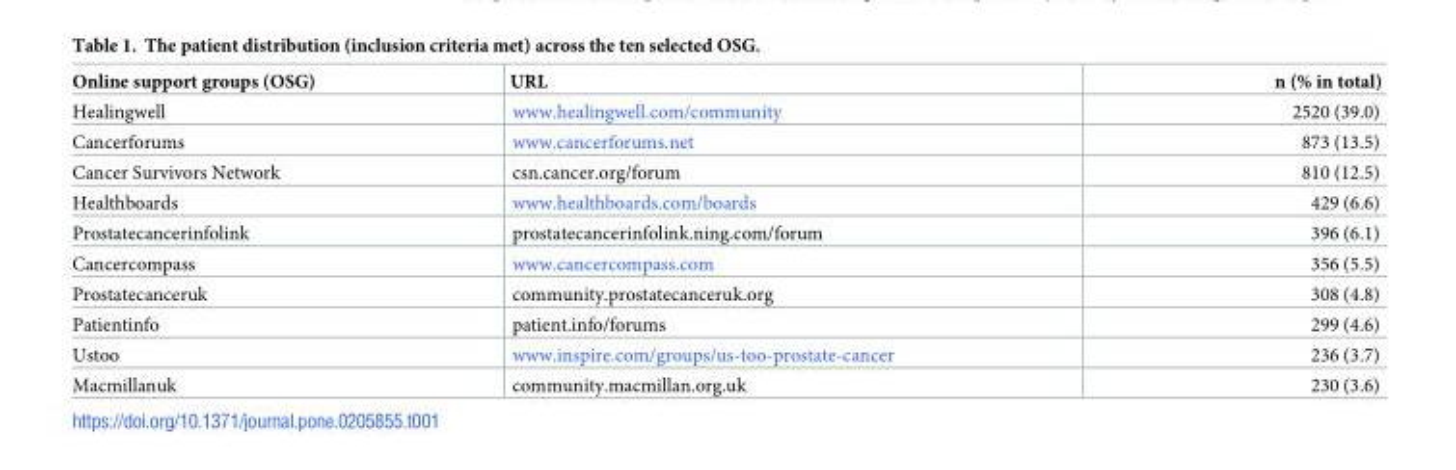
<table><thead><tr><td>Online support groups (OSG)</td><td>URL</td><td>n (% in total)</td></tr></thead><tbody><tr><td>Healingwell</td><td>www.healingwell.com/community</td><td>2520 (39.0)</td></tr><tr><td>Cancerforums</td><td>www.cancerforums.net</td><td>873 (13.5)</td></tr><tr><td>Cancer Survivors Network</td><td>csn.cancer.org/forum</td><td>810 (12.5)</td></tr><tr><td>Healthboards</td><td>www.healthboards.com/boards</td><td>429 (6.6)</td></tr><tr><td>Prostatecancerinfolink</td><td>prostatecancerinfolink.ning.com/forum</td><td>396 (6.1)</td></tr><tr><td>Cancercompass</td><td>www.cancercompass.com</td><td>356 (5.5)</td></tr><tr><td>Prostatecanceruk</td><td>community.prostatecanceruk.org</td><td>308 (4.8)</td></tr><tr><td>Patientinfo</td><td>patient.info/forums</td><td>299 (4.6)</td></tr><tr><td>Ustoo</td><td>www.inspire.com/groups/us-too-prostate-cancer</td><td>236 (3.7)</td></tr><tr><td>Macmillanuk</td><td>community.macmillan.org.uk</td><td>230 (3.6)</td></tr></tbody></table>